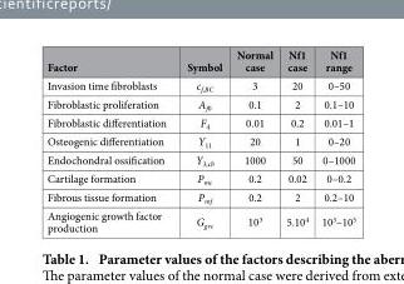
<table><thead><tr><td>Factor</td><td>Symbol</td><td>Normal case</td><td>Nf1 case</td><td>Nf1 range</td></tr></thead><tbody><tr><td>Invasion time fibroblasts</td><td>c<sub>f,BC</sub></td><td>3</td><td>20</td><td>0–50</td></tr><tr><td>Fibroblastic proliferation</td><td>A<sub>f0</sub></td><td>0.1</td><td>2</td><td>0.1–10</td></tr><tr><td>Fibroblastic differentiation</td><td>F<sub>4</sub></td><td>0.01</td><td>0.2</td><td>0.01–1</td></tr><tr><td>Osteogenic differentiation</td><td>Y<sub>11</sub></td><td>20</td><td>1</td><td>0–20</td></tr><tr><td>Endochondral ossification</td><td>Y<sub>3,cb</sub></td><td>1000</td><td>50</td><td>0–1000</td></tr><tr><td>Cartilage formation</td><td>P<sub>mc</sub></td><td>0.2</td><td>0.02</td><td>0–0.2</td></tr><tr><td>Fibrous tissue formation</td><td>P<sub>mf</sub></td><td>0.2</td><td>2</td><td>0.2–10</td></tr><tr><td>Angiogenic growth factor production</td><td>G<sub>gvc</sub></td><td>10<sup>3</sup></td><td>5.10<sup>4</sup></td><td>10<sup>3</sup>–10<sup>5</sup></td></tr></tbody></table>